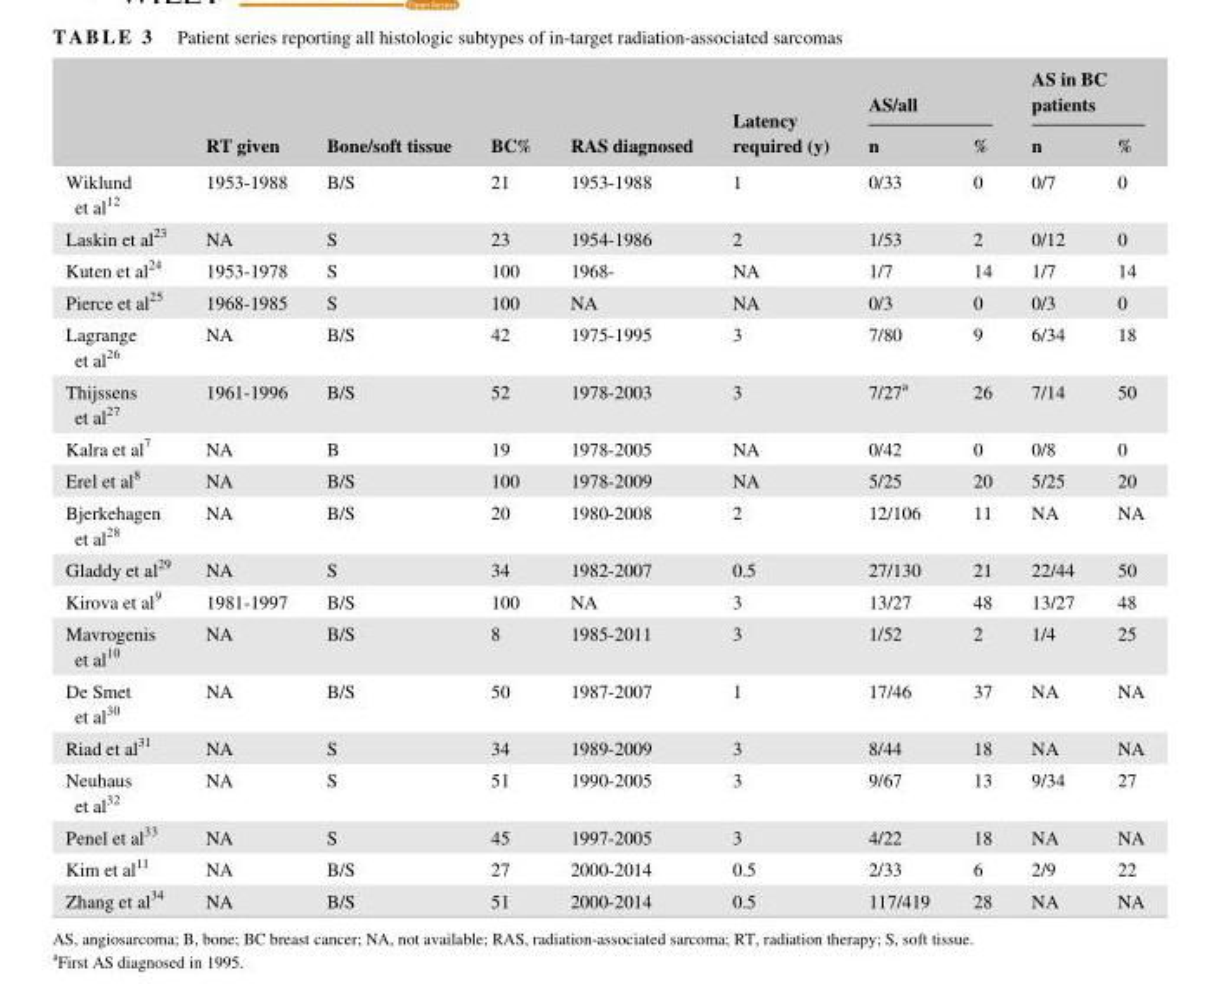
<table><thead><tr><td rowspan="2"></td><td rowspan="2">RT given</td><td rowspan="2">Bone/soft tissue</td><td rowspan="2">BC%</td><td rowspan="2">RAS diagnosed</td><td rowspan="2">Latency required (y)</td><td colspan="2">AS/all</td><td colspan="2">AS in BC patients</td></tr><tr><td>n</td><td>%</td><td>n</td><td>%</td></tr></thead><tbody><tr><td>Wiklund et al<sup>12</sup></td><td>1953- 1988</td><td>B/S</td><td>21</td><td>1953- 1988</td><td>1</td><td>0/33</td><td>0</td><td>0/7</td><td>0</td></tr><tr><td>Laskin et al<sup>23</sup></td><td>NA</td><td>S</td><td>23</td><td>1954- 1986</td><td>2</td><td>1/53</td><td>2</td><td>0/12</td><td>0</td></tr><tr><td>Kuten et al<sup>24</sup></td><td>1953- 1978</td><td>S</td><td>100</td><td>1968-</td><td>NA</td><td>1/7</td><td>14</td><td>1/7</td><td>14</td></tr><tr><td>Pierce et al<sup>25</sup></td><td>1968- 1985</td><td>S</td><td>100</td><td>NA</td><td>NA</td><td>0/3</td><td>0</td><td>0/3</td><td>0</td></tr><tr><td>Lagrange et al<sup>26</sup></td><td>NA</td><td>B/S</td><td>42</td><td>1975- 1995</td><td>3</td><td>7/80</td><td>9</td><td>6/34</td><td>18</td></tr><tr><td>Thijssens et al<sup>27</sup></td><td>1961- 1996</td><td>B/S</td><td>52</td><td>1978- 2003</td><td>3</td><td>7/27<sup>a</sup></td><td>26</td><td>7/14</td><td>50</td></tr><tr><td>Kalra et al<sup>7</sup></td><td>NA</td><td>B</td><td>19</td><td>1978- 2005</td><td>NA</td><td>0/42</td><td>0</td><td>0/8</td><td>0</td></tr><tr><td>Erel et al<sup>8</sup></td><td>NA</td><td>B/S</td><td>100</td><td>1978- 2009</td><td>NA</td><td>5/25</td><td>20</td><td>5/25</td><td>20</td></tr><tr><td>Bjerkehagen et al<sup>28</sup></td><td>NA</td><td>B/S</td><td>20</td><td>1980- 2008</td><td>2</td><td>12/106</td><td>11</td><td>NA</td><td>NA</td></tr><tr><td>Gladdy et al<sup>29</sup></td><td>NA</td><td>S</td><td>34</td><td>1982- 2007</td><td>0.5</td><td>27/130</td><td>21</td><td>22/44</td><td>50</td></tr><tr><td>Kirova et al<sup>9</sup></td><td>1981- 1997</td><td>B/S</td><td>100</td><td>NA</td><td>3</td><td>13/27</td><td>48</td><td>13/27</td><td>48</td></tr><tr><td>Mavrogenis et al<sup>10</sup></td><td>NA</td><td>B/S</td><td>8</td><td>1985- 2011</td><td>3</td><td>1/52</td><td>2</td><td>1/4</td><td>25</td></tr><tr><td>De Smet et al<sup>30</sup></td><td>NA</td><td>B/S</td><td>50</td><td>1987- 2007</td><td>1</td><td>17/46</td><td>37</td><td>NA</td><td>NA</td></tr><tr><td>Riad et al<sup>31</sup></td><td>NA</td><td>S</td><td>34</td><td>1989- 2009</td><td>3</td><td>8/44</td><td>18</td><td>NA</td><td>NA</td></tr><tr><td>Neuhaus et al<sup>32</sup></td><td>NA</td><td>S</td><td>51</td><td>1990- 2005</td><td>3</td><td>9/67</td><td>13</td><td>9/34</td><td>27</td></tr><tr><td>Penel et al<sup>33</sup></td><td>NA</td><td>S</td><td>45</td><td>1997- 2005</td><td>3</td><td>4/22</td><td>18</td><td>NA</td><td>NA</td></tr><tr><td>Kim et al<sup>11</sup></td><td>NA</td><td>B/S</td><td>27</td><td>2000- 2014</td><td>0.5</td><td>2/33</td><td>6</td><td>2/9</td><td>22</td></tr><tr><td>Zhang et al<sup>34</sup></td><td>NA</td><td>B/S</td><td>51</td><td>2000- 2014</td><td>0.5</td><td>117/419</td><td>28</td><td>NA</td><td>NA</td></tr></tbody></table>